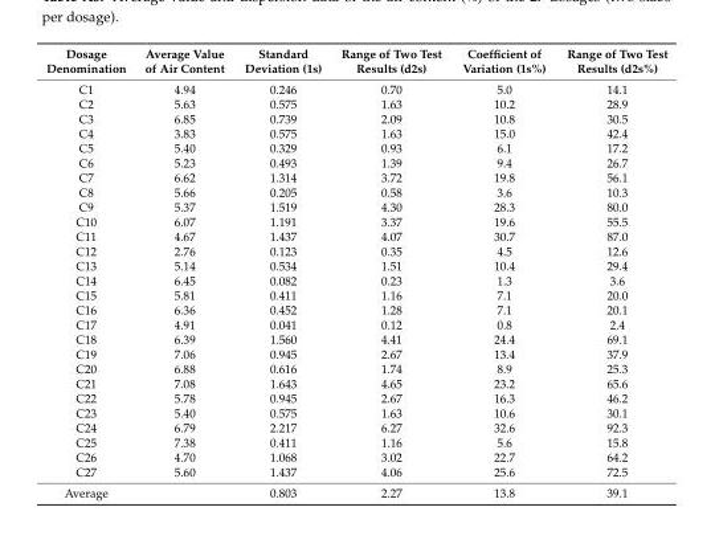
<table><thead><tr><td>Dosage Denomination</td><td>Average Value of Air Content</td><td>Standard Deviation (1s)</td><td>Range of Two Test Results (d2s)</td><td>Coefficient of Variation (1s%)</td><td>Range of Two Test Results (d2s%)</td></tr></thead><tbody><tr><td>C1</td><td>4.94</td><td>0.246</td><td>0.70</td><td>5.0</td><td>14.1</td></tr><tr><td>C2</td><td>5.63</td><td>0.575</td><td>1.63</td><td>10.2</td><td>28.9</td></tr><tr><td>C3</td><td>6.85</td><td>0.739</td><td>2.09</td><td>10.8</td><td>30.5</td></tr><tr><td>C4</td><td>3.83</td><td>0.575</td><td>1.63</td><td>15.0</td><td>42.4</td></tr><tr><td>C5</td><td>5.40</td><td>0.329</td><td>0.93</td><td>6.1</td><td>17.2</td></tr><tr><td>C6</td><td>5.23</td><td>0.493</td><td>1.39</td><td>9.4</td><td>26.7</td></tr><tr><td>C7</td><td>6.62</td><td>1.314</td><td>3.72</td><td>19.8</td><td>56.1</td></tr><tr><td>C8</td><td>5.66</td><td>0.205</td><td>0.58</td><td>3.6</td><td>10.3</td></tr><tr><td>C9</td><td>5.37</td><td>1.519</td><td>4.30</td><td>28.3</td><td>80.0</td></tr><tr><td>C10</td><td>6.07</td><td>1.191</td><td>3.37</td><td>19.6</td><td>55.5</td></tr><tr><td>C11</td><td>4.67</td><td>1.437</td><td>4.07</td><td>30.7</td><td>87.0</td></tr><tr><td>C12</td><td>2.76</td><td>0.123</td><td>0.35</td><td>4.5</td><td>12.6</td></tr><tr><td>C13</td><td>5.14</td><td>0.534</td><td>1.51</td><td>10.4</td><td>29.4</td></tr><tr><td>C14</td><td>6.45</td><td>0.082</td><td>0.23</td><td>1.3</td><td>3.6</td></tr><tr><td>C15</td><td>5.81</td><td>0.411</td><td>1.16</td><td>7.1</td><td>20.0</td></tr><tr><td>C16</td><td>6.36</td><td>0.452</td><td>1.28</td><td>7.1</td><td>20.1</td></tr><tr><td>C17</td><td>4.91</td><td>0.041</td><td>0.12</td><td>0.8</td><td>2.4</td></tr><tr><td>C18</td><td>6.39</td><td>1.560</td><td>4.41</td><td>24.4</td><td>69.1</td></tr><tr><td>C19</td><td>7.06</td><td>0.945</td><td>2.67</td><td>13.4</td><td>37.9</td></tr><tr><td>C20</td><td>6.88</td><td>0.616</td><td>1.74</td><td>8.9</td><td>25.3</td></tr><tr><td>C21</td><td>7.08</td><td>1.643</td><td>4.65</td><td>23.2</td><td>65.6</td></tr><tr><td>C22</td><td>5.78</td><td>0.945</td><td>2.67</td><td>16.3</td><td>46.2</td></tr><tr><td>C23</td><td>5.40</td><td>0.575</td><td>1.63</td><td>10.6</td><td>30.1</td></tr><tr><td>C24</td><td>6.79</td><td>2.217</td><td>6.27</td><td>32.6</td><td>92.3</td></tr><tr><td>C25</td><td>7.38</td><td>0.411</td><td>1.16</td><td>5.6</td><td>15.8</td></tr><tr><td>C26</td><td>4.70</td><td>1.068</td><td>3.02</td><td>22.7</td><td>64.2</td></tr><tr><td>C27</td><td>5.60</td><td>1.437</td><td>4.06</td><td>25.6</td><td>72.5</td></tr><tr><td>Average</td><td></td><td>0.803</td><td>2.27</td><td>13.8</td><td>39.1</td></tr></tbody></table>